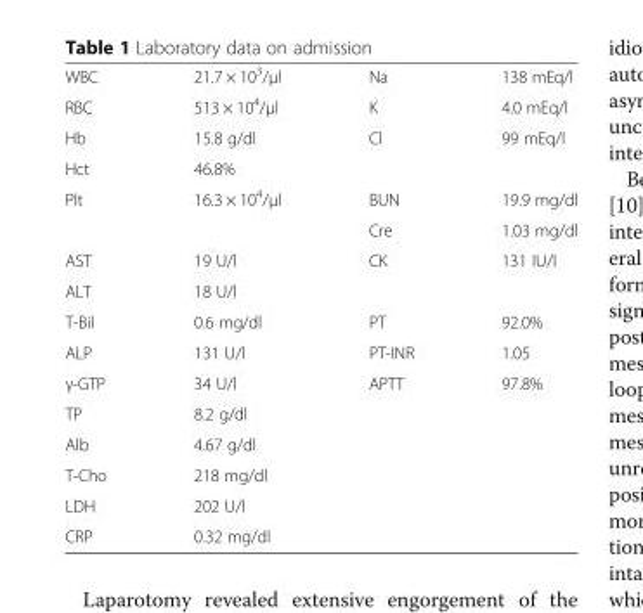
<table><tbody><tr><td>WBC</td><td>21.7 × 10<sup>3</sup>/μl</td><td>Na</td><td>138 mEq/l</td></tr><tr><td>RBC</td><td>513 × 10<sup>4</sup>/μl</td><td>K</td><td>4.0 mEq/l</td></tr><tr><td>Hb</td><td>15.8 g/dl</td><td>Cl</td><td>99 mEq/l</td></tr><tr><td>Hct</td><td>46.8%</td><td></td><td></td></tr><tr><td rowspan="2">Plt</td><td>16.3 × 10<sup>4</sup>/μl</td><td>BUN</td><td>19.9 mg/dl</td></tr><tr><td></td><td>Cre</td><td>1.03 mg/dl</td></tr><tr><td>AST</td><td>19 U/l</td><td>CK</td><td>131 IU/l</td></tr><tr><td>ALT</td><td>18 U/l</td><td></td><td></td></tr><tr><td>T-Bil</td><td>0.6 mg/dl</td><td>PT</td><td>92.0%</td></tr><tr><td>ALP</td><td>131 U/l</td><td>PT-INR</td><td>1.05</td></tr><tr><td>γ-GTP</td><td>34 U/l</td><td>APTT</td><td>97.8%</td></tr><tr><td>TP</td><td>8.2 g/dl</td><td></td><td></td></tr><tr><td>Alb</td><td>4.67 g/dl</td><td></td><td></td></tr><tr><td>T-Cho</td><td>218 mg/dl</td><td></td><td></td></tr><tr><td>LDH</td><td>202 U/l</td><td></td><td></td></tr><tr><td>CRP</td><td>0.32 mg/dl</td><td></td><td></td></tr></tbody></table>